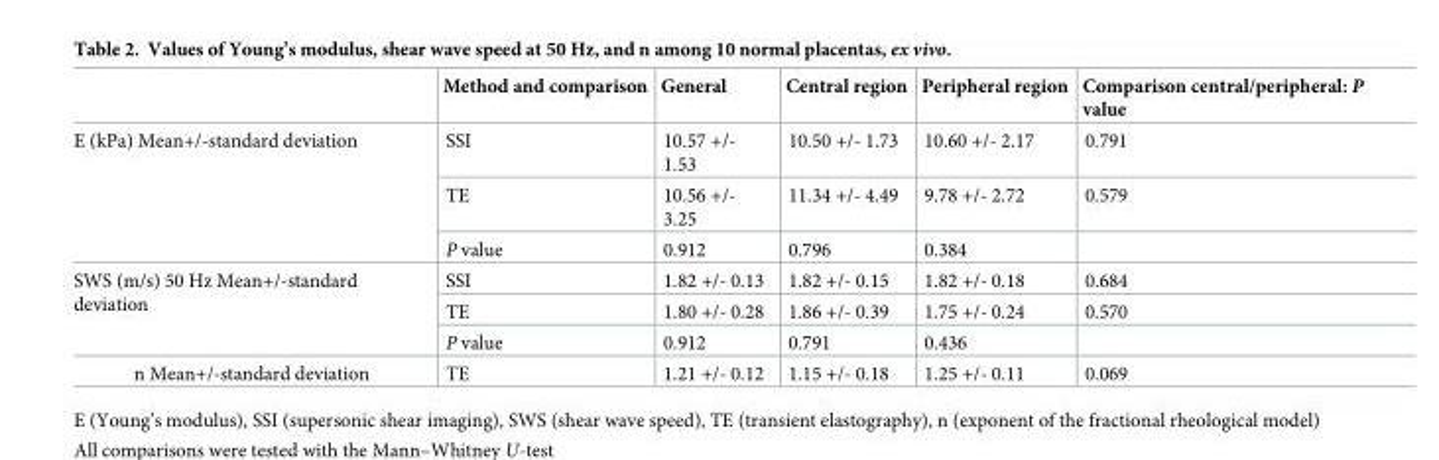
<table><thead><tr><td></td><td>Method and comparison</td><td>General</td><td>Central region</td><td>Peripheral region</td><td>Comparison central/peripheral: P value</td></tr></thead><tbody><tr><td rowspan="3">E (kPa) Mean+/-standard deviation</td><td>SSI</td><td>10.57 +/- 1.53</td><td>10.50 +/- 1.73</td><td>10.60 +/- 2.17</td><td>0.791</td></tr><tr><td>TE</td><td>10.56 +/- 3.25</td><td>11.34 +/- 4.49</td><td>9.78 +/- 2.72</td><td>0.579</td></tr><tr><td>P value</td><td>0.912</td><td>0.796</td><td>0.384</td><td></td></tr><tr><td rowspan="3">SWS (m/s) 50 Hz Mean+/-standard deviation</td><td>SSI</td><td>1.82 +/- 0.13</td><td>1.82 +/- 0.15</td><td>1.82 +/- 0.18</td><td>0.684</td></tr><tr><td>TE</td><td>1.80 +/- 0.28</td><td>1.86 +/- 0.39</td><td>1.75 +/- 0.24</td><td>0.570</td></tr><tr><td>P value</td><td>0.912</td><td>0.791</td><td>0.436</td><td></td></tr><tr><td>n Mean+/-standard deviation</td><td>TE</td><td>1.21 +/- 0.12</td><td>1.15 +/- 0.18</td><td>1.25 +/- 0.11</td><td>0.069</td></tr></tbody></table>